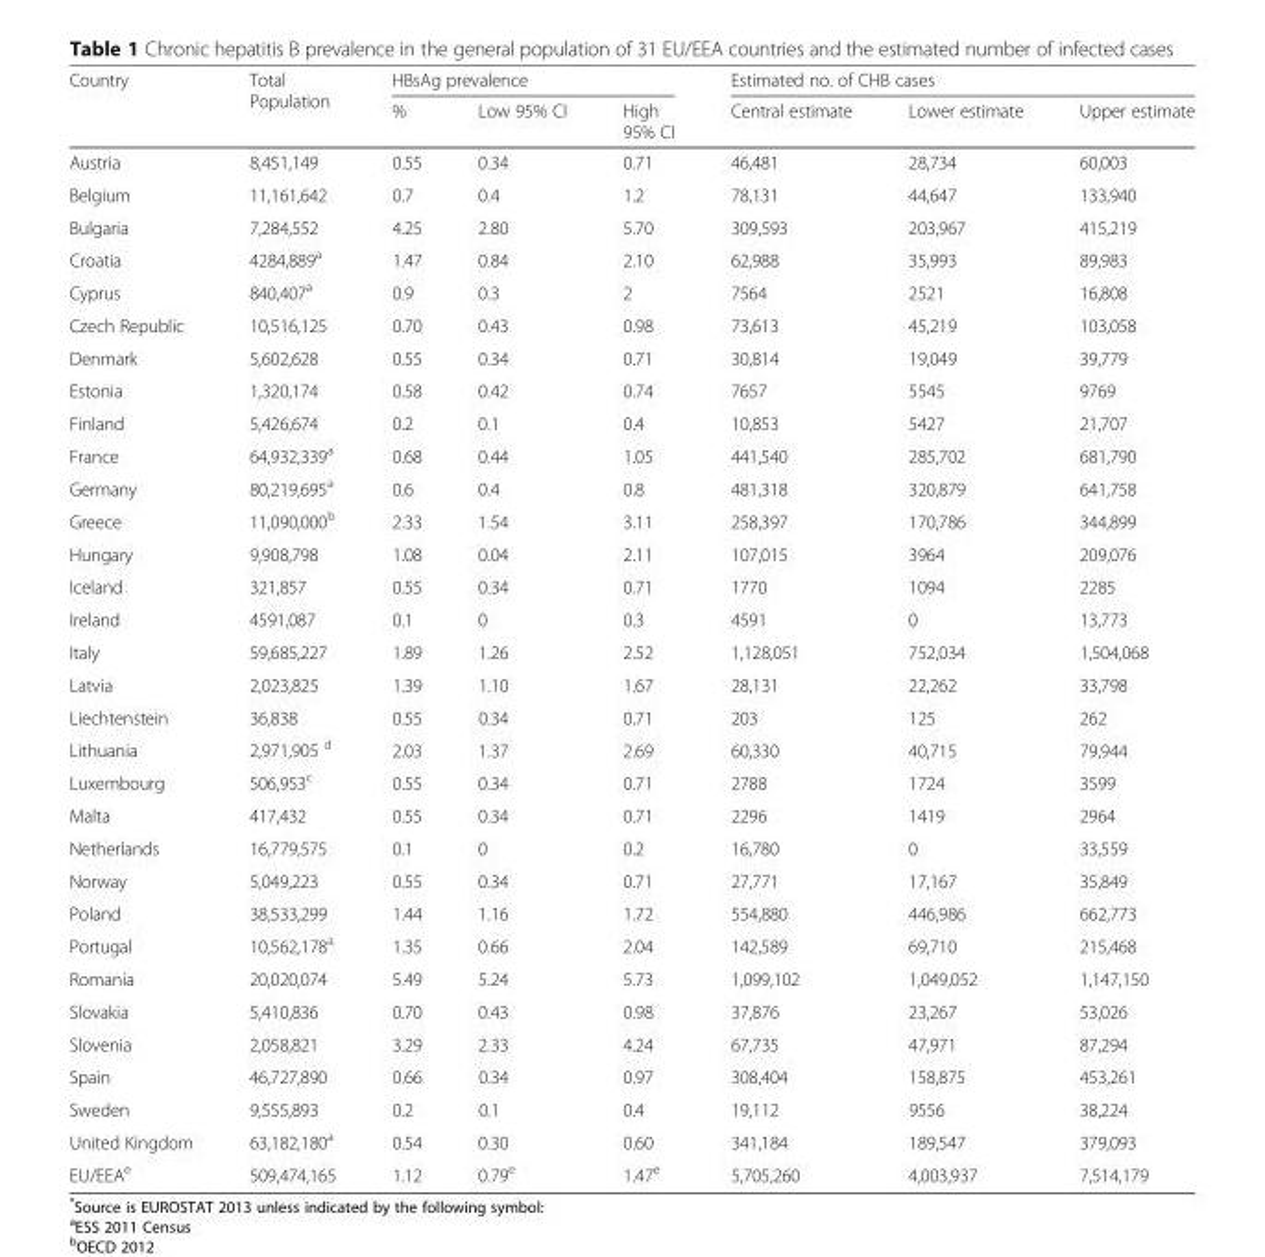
<table><thead><tr><td rowspan="2">Country</td><td rowspan="2">Total Population</td><td colspan="3">HBsAg prevalence</td><td colspan="3">Estimated no. of CHB cases</td></tr><tr><td>%</td><td>Low 95% CI</td><td>High 95% CI</td><td>Central estimate</td><td>Lower estimate</td><td>Upper estimate</td></tr></thead><tbody><tr><td>Austria</td><td>8,451,149</td><td>0.55</td><td>0.34</td><td>0.71</td><td>46,481</td><td>28,734</td><td>60,003</td></tr><tr><td>Belgium</td><td>11,161,642</td><td>0.7</td><td>0.4</td><td>1.2</td><td>78,131</td><td>44,647</td><td>133,940</td></tr><tr><td>Bulgaria</td><td>7,284,552</td><td>4.25</td><td>2.80</td><td>5.70</td><td>309,593</td><td>203,967</td><td>415,219</td></tr><tr><td>Croatia</td><td>4284,889<sup>a</sup></td><td>1.47</td><td>0.84</td><td>2.10</td><td>62,988</td><td>35,993</td><td>89,983</td></tr><tr><td>Cyprus</td><td>840,407<sup>a</sup></td><td>0.9</td><td>0.3</td><td>2</td><td>7564</td><td>2521</td><td>16,808</td></tr><tr><td>Czech Republic</td><td>10,516,125</td><td>0.70</td><td>0.43</td><td>0.98</td><td>73,613</td><td>45,219</td><td>103,058</td></tr><tr><td>Denmark</td><td>5,602,628</td><td>0.55</td><td>0.34</td><td>0.71</td><td>30,814</td><td>19,049</td><td>39,779</td></tr><tr><td>Estonia</td><td>1,320,174</td><td>0.58</td><td>0.42</td><td>0.74</td><td>7657</td><td>5545</td><td>9769</td></tr><tr><td>Finland</td><td>5,426,674</td><td>0.2</td><td>0.1</td><td>0.4</td><td>10,853</td><td>5427</td><td>21,707</td></tr><tr><td>France</td><td>64,932,339<sup>a</sup></td><td>0.68</td><td>0.44</td><td>1.05</td><td>441,540</td><td>285,702</td><td>681,790</td></tr><tr><td>Germany</td><td>80,219,695<sup>a</sup></td><td>0.6</td><td>0.4</td><td>0.8</td><td>481,318</td><td>320,879</td><td>641,758</td></tr><tr><td>Greece</td><td>11,090,000<sup>b</sup></td><td>2.33</td><td>1.54</td><td>3.11</td><td>258,397</td><td>170,786</td><td>344,899</td></tr><tr><td>Hungary</td><td>9,908,798</td><td>1.08</td><td>0.04</td><td>2.11</td><td>107,015</td><td>3964</td><td>209,076</td></tr><tr><td>Iceland</td><td>321,857</td><td>0.55</td><td>0.34</td><td>0.71</td><td>1770</td><td>1094</td><td>2285</td></tr><tr><td>Ireland</td><td>4591,087</td><td>0.1</td><td>0</td><td>0.3</td><td>4591</td><td>0</td><td>13,773</td></tr><tr><td>Italy</td><td>59,685,227</td><td>1.89</td><td>1.26</td><td>2.52</td><td>1,128,051</td><td>752,034</td><td>1,504,068</td></tr><tr><td>Latvia</td><td>2,023,825</td><td>1.39</td><td>1.10</td><td>1.67</td><td>28,131</td><td>22,262</td><td>33,798</td></tr><tr><td>Liechtenstein</td><td>36,838</td><td>0.55</td><td>0.34</td><td>0.71</td><td>203</td><td>125</td><td>262</td></tr><tr><td>Lithuania</td><td>2,971,905 <sup>d</sup></td><td>2.03</td><td>1.37</td><td>2.69</td><td>60,330</td><td>40,715</td><td>79,944</td></tr><tr><td>Luxembourg</td><td>506,953<sup>c</sup></td><td>0.55</td><td>0.34</td><td>0.71</td><td>2788</td><td>1724</td><td>3599</td></tr><tr><td>Malta</td><td>417,432</td><td>0.55</td><td>0.34</td><td>0.71</td><td>2296</td><td>1419</td><td>2964</td></tr><tr><td>Netherlands</td><td>16,779,575</td><td>0.1</td><td>0</td><td>0.2</td><td>16,780</td><td>0</td><td>33,559</td></tr><tr><td>Norway</td><td>5,049,223</td><td>0.55</td><td>0.34</td><td>0.71</td><td>27,771</td><td>17,167</td><td>35,849</td></tr><tr><td>Poland</td><td>38,533,299</td><td>1.44</td><td>1.16</td><td>1.72</td><td>554,880</td><td>446,986</td><td>662,773</td></tr><tr><td>Portugal</td><td>10,562,178<sup>a</sup></td><td>1.35</td><td>0.66</td><td>2.04</td><td>142,589</td><td>69,710</td><td>215,468</td></tr><tr><td>Romania</td><td>20,020,074</td><td>5.49</td><td>5.24</td><td>5.73</td><td>1,099,102</td><td>1,049,052</td><td>1,147,150</td></tr><tr><td>Slovakia</td><td>5,410,836</td><td>0.70</td><td>0.43</td><td>0.98</td><td>37,876</td><td>23,267</td><td>53,026</td></tr><tr><td>Slovenia</td><td>2,058,821</td><td>3.29</td><td>2.33</td><td>4.24</td><td>67,735</td><td>47,971</td><td>87,294</td></tr><tr><td>Spain</td><td>46,727,890</td><td>0.66</td><td>0.34</td><td>0.97</td><td>308,404</td><td>158,875</td><td>453,261</td></tr><tr><td>Sweden</td><td>9,555,893</td><td>0.2</td><td>0.1</td><td>0.4</td><td>19,112</td><td>9556</td><td>38,224</td></tr><tr><td>United Kingdom</td><td>63,182,180<sup>a</sup></td><td>0.54</td><td>0.30</td><td>0.60</td><td>341,184</td><td>189,547</td><td>379,093</td></tr><tr><td>EU/EEA<sup>e</sup></td><td>509,474,165</td><td>1.12</td><td>0.79<sup>e</sup></td><td>1.47<sup>e</sup></td><td>5,705,260</td><td>4,003,937</td><td>7,514,179</td></tr></tbody></table>